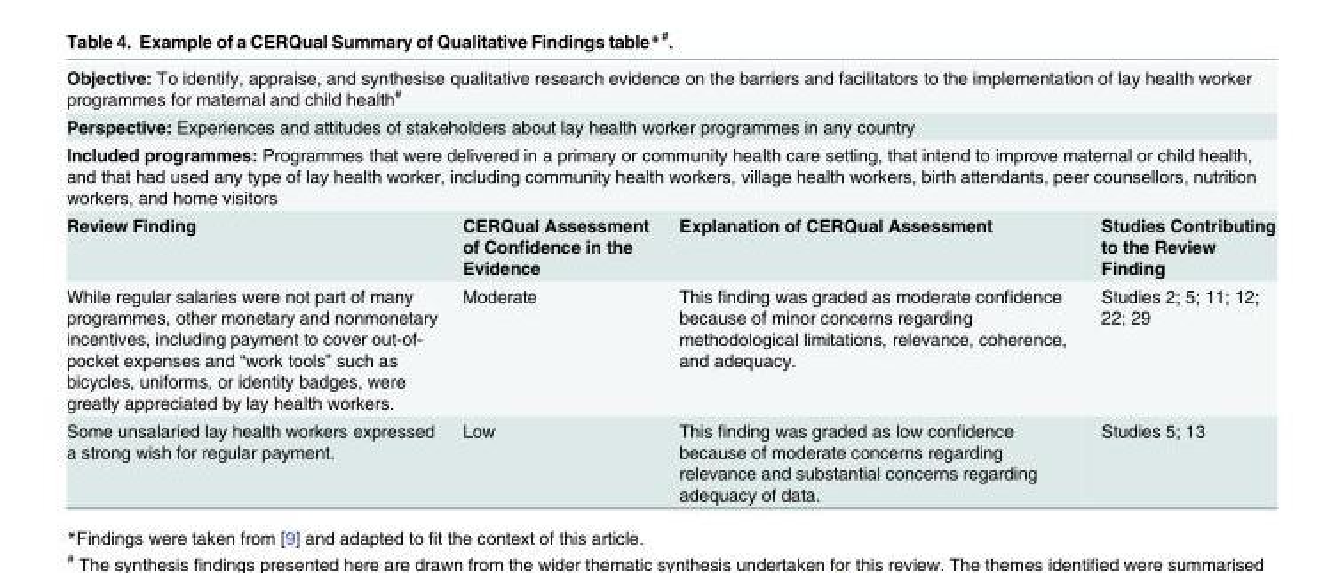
<table><tbody><tr><td colspan="4">Objective: To identify, appraise, and synthesise qualitative research evidence on the barriers and facilitators to the implementation of lay health worker programmes for maternal and child health<sup>#</sup></td></tr><tr><td colspan="4">Perspective: Experiences and attitudes of stakeholders about lay health worker programmes in any country</td></tr><tr><td colspan="4">Included programmes: Programmes that were delivered in a primary or community health care setting, that intend to improve maternal or child health, and that had used any type of lay health worker, including community health workers, village health workers, birth attendants, peer counsellors, nutrition workers, and home visitors</td></tr><tr><td>Review Finding</td><td>CERQual Assessment of Confidence in the Evidence</td><td>Explanation of CERQual Assessment</td><td>Studies Contributing to the Review Finding</td></tr><tr><td>While regular salaries were not part of many programmes, other monetary and nonmonetary incentives, including payment to cover out-of- pocket expenses and “work tools” such as bicycles, uniforms, or identity badges, were greatly appreciated by lay health workers.</td><td>Moderate</td><td>This finding was graded as moderate confidence because of minor concerns regarding methodological limitations, relevance, coherence, and adequacy.</td><td>Studies 2; 5; 11; 12; 22; 29</td></tr><tr><td>Some unsalaried lay health workers expressed a strong wish for regular payment.</td><td>Low</td><td>This finding was graded as low confidence because of moderate concerns regarding relevance and substantial concerns regarding adequacy of data.</td><td>Studies 5; 13</td></tr></tbody></table>